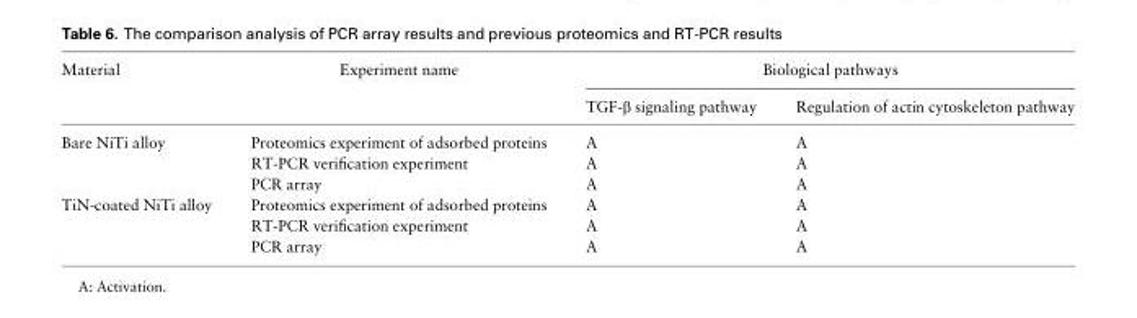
<table><thead><tr><td rowspan="2">Material</td><td rowspan="2">Experiment name</td><td colspan="2">Biological pathways</td></tr><tr><td>TGF-β signaling pathway</td><td>Regulation of actin cytoskeleton pathway</td></tr></thead><tbody><tr><td rowspan="3">Bare NiTi alloy</td><td>Proteomics experiment of adsorbed proteins</td><td>A</td><td>A</td></tr><tr><td>RT-PCR verification experiment</td><td>A</td><td>A</td></tr><tr><td>PCR array</td><td>A</td><td>A</td></tr><tr><td rowspan="3">TiN-coated NiTi alloy</td><td>Proteomics experiment of adsorbed proteins</td><td>A</td><td>A</td></tr><tr><td>RT-PCR verification experiment</td><td>A</td><td>A</td></tr><tr><td>PCR array</td><td>A</td><td>A</td></tr></tbody></table>